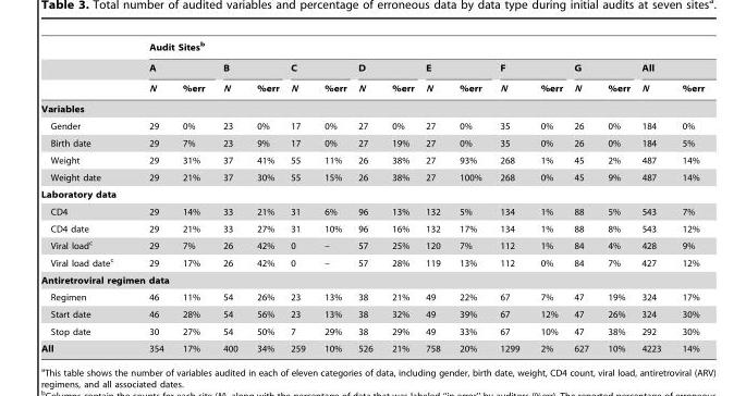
<table><thead><tr><td rowspan="3"></td><td colspan="16">Audit Sites<sup>b</sup></td></tr><tr><td colspan="2">A</td><td colspan="2">B</td><td colspan="2">C</td><td colspan="2">D</td><td colspan="2">E</td><td colspan="2">F</td><td colspan="2">G</td><td colspan="2">All</td></tr><tr><td>N</td><td>%err</td><td>N</td><td>%err</td><td>N</td><td>%err</td><td>N</td><td>%err</td><td>N</td><td>%err</td><td>N</td><td>%err</td><td>N</td><td>%err</td><td>N</td><td>%err</td></tr></thead><tbody><tr><td colspan="17">Variables</td></tr><tr><td>Gender</td><td>29</td><td>0%</td><td>23</td><td>0%</td><td>17</td><td>0%</td><td>27</td><td>0%</td><td>27</td><td>0%</td><td>35</td><td>0%</td><td>26</td><td>0%</td><td>184</td><td>0%</td></tr><tr><td>Birth date</td><td>29</td><td>7%</td><td>23</td><td>9%</td><td>17</td><td>0%</td><td>27</td><td>19%</td><td>27</td><td>0%</td><td>35</td><td>0%</td><td>26</td><td>0%</td><td>184</td><td>5%</td></tr><tr><td>Weight</td><td>29</td><td>31%</td><td>37</td><td>41%</td><td>55</td><td>11%</td><td>26</td><td>38%</td><td>27</td><td>93%</td><td>268</td><td>1%</td><td>45</td><td>2%</td><td>487</td><td>14%</td></tr><tr><td>Weight date</td><td>29</td><td>21%</td><td>37</td><td>30%</td><td>55</td><td>15%</td><td>26</td><td>38%</td><td>27</td><td>100%</td><td>268</td><td>0%</td><td>45</td><td>9%</td><td>487</td><td>14%</td></tr><tr><td colspan="17">Laboratory data</td></tr><tr><td>CD4</td><td>29</td><td>14%</td><td>33</td><td>21%</td><td>31</td><td>6%</td><td>96</td><td>13%</td><td>132</td><td>5%</td><td>134</td><td>1%</td><td>88</td><td>5%</td><td>543</td><td>7%</td></tr><tr><td>CD4 date</td><td>29</td><td>21%</td><td>33</td><td>27%</td><td>31</td><td>10%</td><td>96</td><td>16%</td><td>132</td><td>17%</td><td>134</td><td>1%</td><td>88</td><td>8%</td><td>543</td><td>12%</td></tr><tr><td>Viral load<sup>c</sup></td><td>29</td><td>7%</td><td>26</td><td>42%</td><td>0</td><td>–</td><td>57</td><td>25%</td><td>120</td><td>7%</td><td>112</td><td>1%</td><td>84</td><td>4%</td><td>428</td><td>9%</td></tr><tr><td>Viral load date<sup>c</sup></td><td>29</td><td>17%</td><td>26</td><td>42%</td><td>0</td><td>–</td><td>57</td><td>28%</td><td>119</td><td>13%</td><td>112</td><td>0%</td><td>84</td><td>7%</td><td>427</td><td>12%</td></tr><tr><td colspan="17">Antiretroviral regimen data</td></tr><tr><td>Regimen</td><td>46</td><td>11%</td><td>54</td><td>26%</td><td>23</td><td>13%</td><td>38</td><td>21%</td><td>49</td><td>22%</td><td>67</td><td>7%</td><td>47</td><td>19%</td><td>324</td><td>17%</td></tr><tr><td>Start date</td><td>46</td><td>28%</td><td>54</td><td>56%</td><td>23</td><td>13%</td><td>38</td><td>32%</td><td>49</td><td>39%</td><td>67</td><td>12%</td><td>47</td><td>26%</td><td>324</td><td>30%</td></tr><tr><td>Stop date</td><td>30</td><td>27%</td><td>54</td><td>50%</td><td>7</td><td>29%</td><td>38</td><td>29%</td><td>49</td><td>33%</td><td>67</td><td>10%</td><td>47</td><td>38%</td><td>292</td><td>30%</td></tr><tr><td>All</td><td>354</td><td>17%</td><td>400</td><td>34%</td><td>259</td><td>10%</td><td>526</td><td>21%</td><td>758</td><td>20%</td><td>1299</td><td>2%</td><td>627</td><td>10%</td><td>4223</td><td>14%</td></tr></tbody></table>